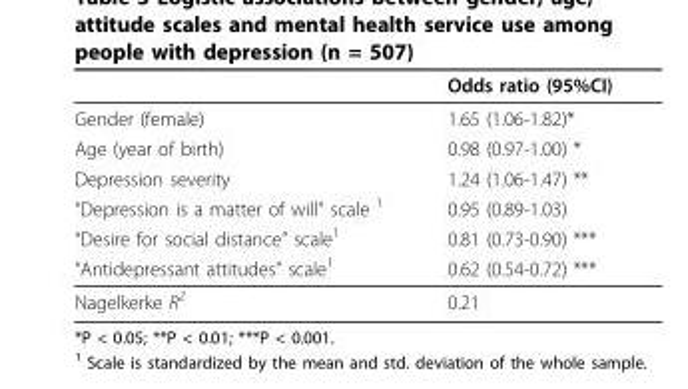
<table><thead><tr><td></td><td>Odds ratio (95%CI)</td></tr></thead><tbody><tr><td>Gender (female)</td><td>1.65 (1.06-1.82)*</td></tr><tr><td>Age (year of birth)</td><td>0.98 (0.97-1.00) *</td></tr><tr><td>Depression severity</td><td>1.24 (1.06-1.47) **</td></tr><tr><td>“Depression is a matter of will” scale 1</td><td>0.95 (0.89-1.03)</td></tr><tr><td>“Desire for social distance” scale1</td><td>0.81 (0.73-0.90) ***</td></tr><tr><td>“Antidepressant attitudes” scale1</td><td>0.62 (0.54-0.72) ***</td></tr><tr><td>Nagelkerke R<sup>2</sup></td><td>0.21</td></tr></tbody></table>